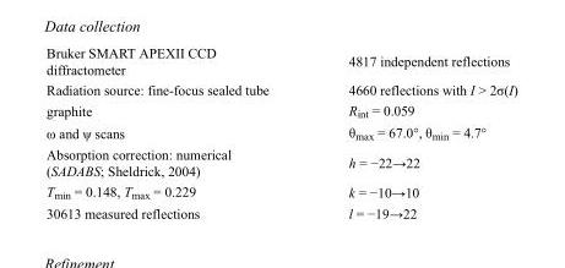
<table><tbody><tr><td>Bruker SMART APEXII CCD diffractometer</td><td>4817 independent reflections</td></tr><tr><td>Radiation source: fine-focus sealed tube</td><td>4660 reflections with I &gt; 2σ(I)</td></tr><tr><td>graphite</td><td>R<sub>int</sub> = 0.059</td></tr><tr><td>ω and ψ scans</td><td>θ<sub>max</sub> = 67.0°, θ<sub>min</sub> = 4.7°</td></tr><tr><td>Absorption correction: numerical (SADABS; Sheldrick, 2004)</td><td>h = −22→22</td></tr><tr><td>T<sub>min</sub> = 0.148, T<sub>max</sub> = 0.229</td><td>k = −10→10</td></tr><tr><td>30613 measured reflections</td><td>l = −19→22</td></tr></tbody></table>